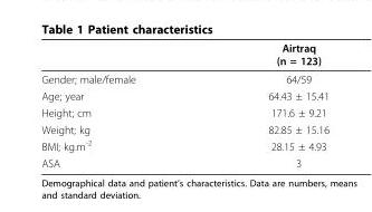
<table><thead><tr><td></td><td>Airtraq (n = 123)</td></tr></thead><tbody><tr><td>Gender; male/female</td><td>64/59</td></tr><tr><td>Age; year</td><td>64.43 ± 15.41</td></tr><tr><td>Height; cm</td><td>171.6 ± 9.21</td></tr><tr><td>Weight; kg</td><td>82.85 ± 15.16</td></tr><tr><td>BMI; kg.m<sup>-2</sup></td><td>28.15 ± 4.93</td></tr><tr><td>ASA</td><td>3</td></tr></tbody></table>